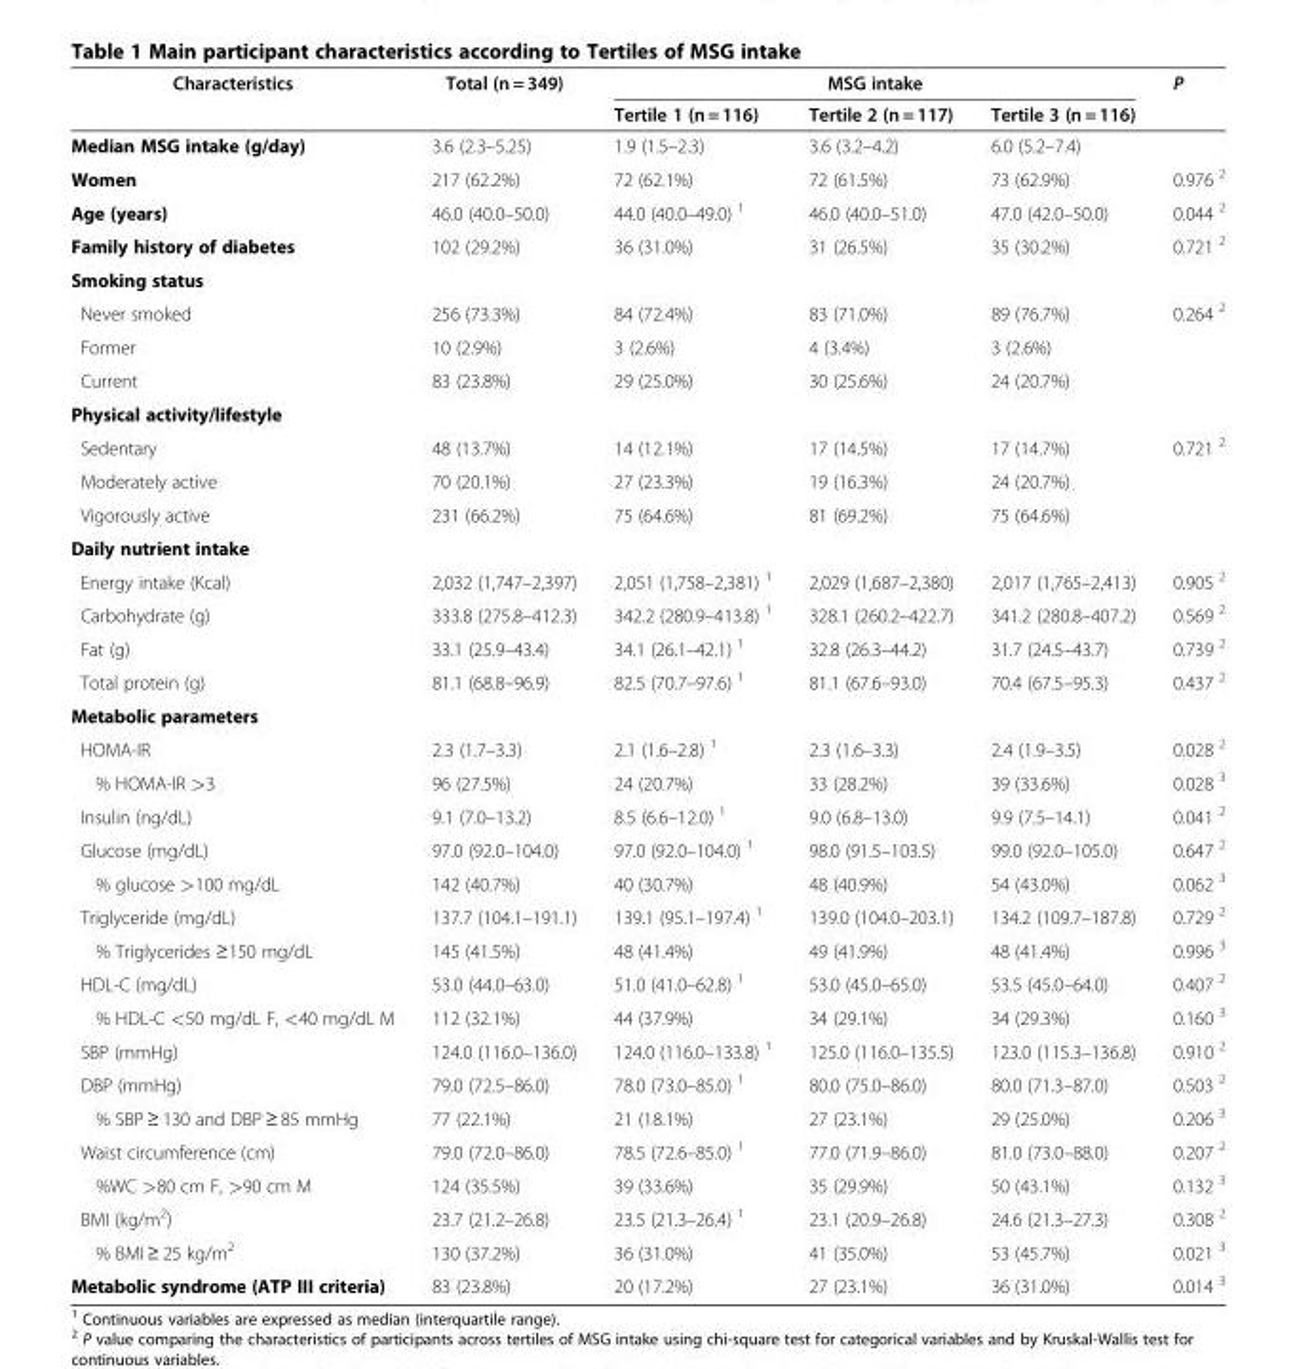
<table><thead><tr><td rowspan="2">Characteristics</td><td rowspan="2">Total (n = 349)</td><td colspan="3">MSG intake</td><td rowspan="2">P</td></tr><tr><td>Tertile 1 (n = 116)</td><td>Tertile 2 (n = 117)</td><td>Tertile 3 (n = 116)</td></tr></thead><tbody><tr><td>Median MSG intake (g/day)</td><td>3.6 (2.3–5.25)</td><td>1.9 (1.5–2.3)</td><td>3.6 (3.2–4.2)</td><td>6.0 (5.2–7.4)</td><td></td></tr><tr><td>Women</td><td>217 (62.2%)</td><td>72 (62.1%)</td><td>72 (61.5%)</td><td>73 (62.9%)</td><td>0.976 <sup>2</sup></td></tr><tr><td>Age (years)</td><td>46.0 (40.0–50.0)</td><td>44.0 (40.0–49.0) <sup>1</sup></td><td>46.0 (40.0–51.0)</td><td>47.0 (42.0–50.0)</td><td>0.044 <sup>2</sup></td></tr><tr><td>Family history of diabetes</td><td>102 (29.2%)</td><td>36 (31.0%)</td><td>31 (26.5%)</td><td>35 (30.2%)</td><td>0.721 <sup>2</sup></td></tr><tr><td colspan="6">Smoking status</td></tr><tr><td>Never smoked</td><td>256 (73.3%)</td><td>84 (72.4%)</td><td>83 (71.0%)</td><td>89 (76.7%)</td><td>0.264 <sup>2</sup></td></tr><tr><td>Former</td><td>10 (2.9%)</td><td>3 (2.6%)</td><td>4 (3.4%)</td><td>3 (2.6%)</td><td></td></tr><tr><td>Current</td><td>83 (23.8%)</td><td>29 (25.0%)</td><td>30 (25.6%)</td><td>24 (20.7%)</td><td></td></tr><tr><td colspan="6">Physical activity/lifestyle</td></tr><tr><td>Sedentary</td><td>48 (13.7%)</td><td>14 (12.1%)</td><td>17 (14.5%)</td><td>17 (14.7%)</td><td>0.721 <sup>2</sup></td></tr><tr><td>Moderately active</td><td>70 (20.1%)</td><td>27 (23.3%)</td><td>19 (16.3%)</td><td>24 (20.7%)</td><td></td></tr><tr><td>Vigorously active</td><td>231 (66.2%)</td><td>75 (64.6%)</td><td>81 (69.2%)</td><td>75 (64.6%)</td><td></td></tr><tr><td colspan="6">Daily nutrient intake</td></tr><tr><td>Energy intake (Kcal)</td><td>2,032 (1,747–2,397)</td><td>2,051 (1,758–2,381) <sup>1</sup></td><td>2,029 (1,687–2,380)</td><td>2,017 (1,765–2,413)</td><td>0.905 <sup>2</sup></td></tr><tr><td>Carbohydrate (g)</td><td>333.8 (275.8–412.3)</td><td>342.2 (280.9–413.8) <sup>1</sup></td><td>328.1 (260.2–422.7)</td><td>341.2 (280.8–407.2)</td><td>0.569 <sup>2</sup></td></tr><tr><td>Fat (g)</td><td>33.1 (25.9–43.4)</td><td>34.1 (26.1–42.1) <sup>1</sup></td><td>32.8 (26.3–44.2)</td><td>31.7 (24.5–43.7)</td><td>0.739 <sup>2</sup></td></tr><tr><td>Total protein (g)</td><td>81.1 (68.8–96.9)</td><td>82.5 (70.7–97.6) <sup>1</sup></td><td>81.1 (67.6–93.0)</td><td>70.4 (67.5–95.3)</td><td>0.437 <sup>2</sup></td></tr><tr><td colspan="6">Metabolic parameters</td></tr><tr><td>HOMA-IR</td><td>2.3 (1.7–3.3)</td><td>2.1 (1.6–2.8) <sup>1</sup></td><td>2.3 (1.6–3.3)</td><td>2.4 (1.9–3.5)</td><td>0.028 <sup>2</sup></td></tr><tr><td>% HOMA-IR &gt;3</td><td>96 (27.5%)</td><td>24 (20.7%)</td><td>33 (28.2%)</td><td>39 (33.6%)</td><td>0.028 <sup>3</sup></td></tr><tr><td>Insulin (ng/dL)</td><td>9.1 (7.0–13.2)</td><td>8.5 (6.6–12.0) <sup>1</sup></td><td>9.0 (6.8–13.0)</td><td>9.9 (7.5–14.1)</td><td>0.041 <sup>2</sup></td></tr><tr><td>Glucose (mg/dL)</td><td>97.0 (92.0–104.0)</td><td>97.0 (92.0–104.0) <sup>1</sup></td><td>98.0 (91.5–103.5)</td><td>99.0 (92.0–105.0)</td><td>0.647 <sup>2</sup></td></tr><tr><td>% glucose &gt;100 mg/dL</td><td>142 (40.7%)</td><td>40 (30.7%)</td><td>48 (40.9%)</td><td>54 (43.0%)</td><td>0.062 <sup>3</sup></td></tr><tr><td>Triglyceride (mg/dL)</td><td>137.7 (104.1–191.1)</td><td>139.1 (95.1–197.4) <sup>1</sup></td><td>139.0 (104.0–203.1)</td><td>134.2 (109.7–187.8)</td><td>0.729 <sup>2</sup></td></tr><tr><td>% Triglycerides ≥150 mg/dL</td><td>145 (41.5%)</td><td>48 (41.4%)</td><td>49 (41.9%)</td><td>48 (41.4%)</td><td>0.996 <sup>3</sup></td></tr><tr><td>HDL-C (mg/dL)</td><td>53.0 (44.0–63.0)</td><td>51.0 (41.0–62.8) <sup>1</sup></td><td>53.0 (45.0–65.0)</td><td>53.5 (45.0–64.0)</td><td>0.407 <sup>2</sup></td></tr><tr><td>% HDL-C &lt;50 mg/dL F, &lt;40 mg/dL M</td><td>112 (32.1%)</td><td>44 (37.9%)</td><td>34 (29.1%)</td><td>34 (29.3%)</td><td>0.160 <sup>3</sup></td></tr><tr><td>SBP (mmHg)</td><td>124.0 (116.0–136.0)</td><td>124.0 (116.0–133.8) <sup>1</sup></td><td>125.0 (116.0–135.5)</td><td>123.0 (115.3–136.8)</td><td>0.910 <sup>2</sup></td></tr><tr><td>DBP (mmHg)</td><td>79.0 (72.5–86.0)</td><td>78.0 (73.0–85.0) <sup>1</sup></td><td>80.0 (75.0–86.0)</td><td>80.0 (71.3–87.0)</td><td>0.503 <sup>2</sup></td></tr><tr><td>% SBP ≥ 130 and DBP ≥ 85 mmHg</td><td>77 (22.1%)</td><td>21 (18.1%)</td><td>27 (23.1%)</td><td>29 (25.0%)</td><td>0.206 <sup>3</sup></td></tr><tr><td>Waist circumference (cm)</td><td>79.0 (72.0–86.0)</td><td>78.5 (72.6–85.0) <sup>1</sup></td><td>77.0 (71.9–86.0)</td><td>81.0 (73.0–88.0)</td><td>0.207 <sup>2</sup></td></tr><tr><td>%WC &gt;80 cm F, &gt;90 cm M</td><td>124 (35.5%)</td><td>39 (33.6%)</td><td>35 (29.9%)</td><td>50 (43.1%)</td><td>0.132 <sup>3</sup></td></tr><tr><td>BMI (kg/m<sup>2</sup>)</td><td>23.7 (21.2–26.8)</td><td>23.5 (21.3–26.4) <sup>1</sup></td><td>23.1 (20.9–26.8)</td><td>24.6 (21.3–27.3)</td><td>0.308 <sup>2</sup></td></tr><tr><td>% BMI ≥ 25 kg/m<sup>2</sup></td><td>130 (37.2%)</td><td>36 (31.0%)</td><td>41 (35.0%)</td><td>53 (45.7%)</td><td>0.021 <sup>3</sup></td></tr><tr><td>Metabolic syndrome (ATP III criteria)</td><td>83 (23.8%)</td><td>20 (17.2%)</td><td>27 (23.1%)</td><td>36 (31.0%)</td><td>0.014 <sup>3</sup></td></tr></tbody></table>